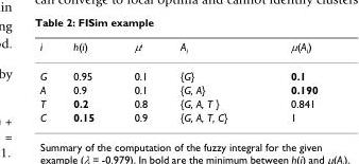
<table><thead><tr><td>i</td><td>h(i)</td><td>μ<sup>i</sup></td><td>A<sub>i</sub></td><td>μ(A<sub>i</sub>)</td></tr></thead><tbody><tr><td>G</td><td>0.95</td><td>0.1</td><td>{G}</td><td>0.1</td></tr><tr><td>A</td><td>0.9</td><td>0.1</td><td>{G, A}</td><td>0.190</td></tr><tr><td>T</td><td>0.2</td><td>0.8</td><td>{G, A, T }</td><td>0.841</td></tr><tr><td>C</td><td>0.15</td><td>0.9</td><td>{G, A, T, C}</td><td>1</td></tr></tbody></table>